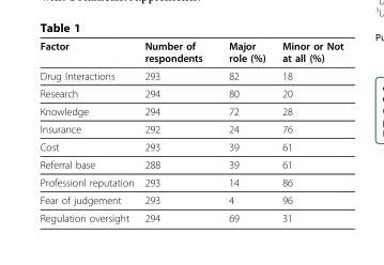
<table><thead><tr><td>Factor</td><td>Number of respondents</td><td>Major role (%)</td><td>Minor or Not at all (%)</td></tr></thead><tbody><tr><td>Drug Interactions</td><td>293</td><td>82</td><td>18</td></tr><tr><td>Research</td><td>294</td><td>80</td><td>20</td></tr><tr><td>Knowledge</td><td>294</td><td>72</td><td>28</td></tr><tr><td>Insurance</td><td>292</td><td>24</td><td>76</td></tr><tr><td>Cost</td><td>293</td><td>39</td><td>61</td></tr><tr><td>Referral base</td><td>288</td><td>39</td><td>61</td></tr><tr><td>Professionl reputation</td><td>293</td><td>14</td><td>86</td></tr><tr><td>Fear of judgement</td><td>293</td><td>4</td><td>96</td></tr><tr><td>Regulation oversight</td><td>294</td><td>69</td><td>31</td></tr></tbody></table>